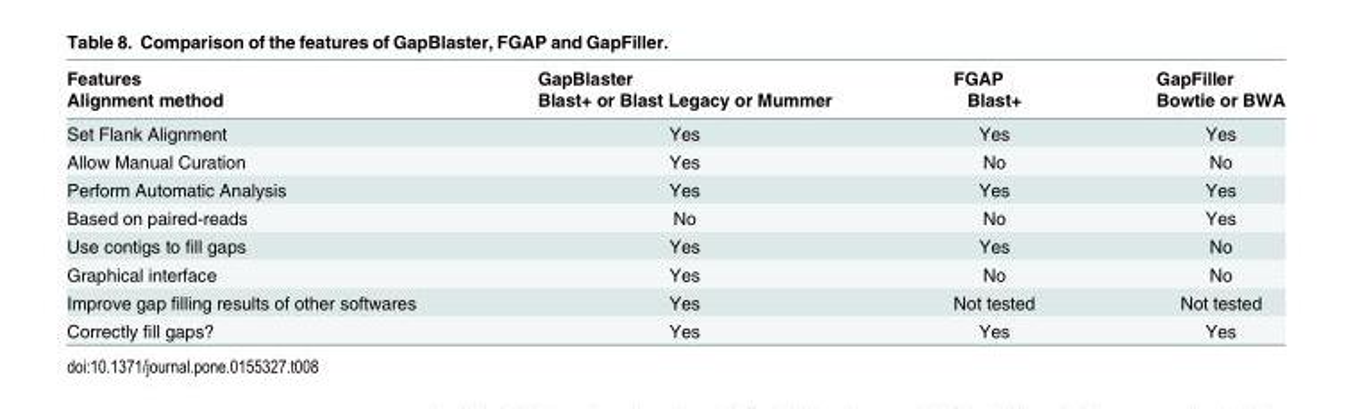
<table><thead><tr><td rowspan="2">Features Alignment method</td><td rowspan="2">GapBlaster Blast+ or Blast Legacy or Mummer</td><td rowspan="2">FGAP Blast+</td><td rowspan="2">GapFiller Bowtie or BWA</td></tr><tr></tr></thead><tbody><tr><td>Set Flank Alignment</td><td>Yes</td><td>Yes</td><td>Yes</td></tr><tr><td>Allow Manual Curation</td><td>Yes</td><td>No</td><td>No</td></tr><tr><td>Perform Automatic Analysis</td><td>Yes</td><td>Yes</td><td>Yes</td></tr><tr><td>Based on paired-reads</td><td>No</td><td>No</td><td>Yes</td></tr><tr><td>Use contigs to fill gaps</td><td>Yes</td><td>Yes</td><td>No</td></tr><tr><td>Graphical interface</td><td>Yes</td><td>No</td><td>No</td></tr><tr><td>Improve gap filling results of other softwares</td><td>Yes</td><td>Not tested</td><td>Not tested</td></tr><tr><td>Correctly fill gaps?</td><td>Yes</td><td>Yes</td><td>Yes</td></tr></tbody></table>